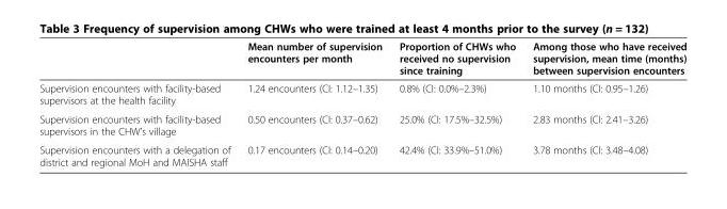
<table><thead><tr><td></td><td>Mean number of supervision encounters per month</td><td>Proportion of CHWs who received no supervision since training</td><td>Among those who have received supervision, mean time (months) between supervision encounters</td></tr></thead><tbody><tr><td>Supervision encounters with facility-based supervisors at the health facility</td><td>1.24 encounters (CI: 1.12–1.35)</td><td>0.8% (CI: 0.0%–2.3%)</td><td>1.10 months (CI: 0.95–1.26)</td></tr><tr><td>Supervision encounters with facility-based supervisors in the CHW’s village</td><td>0.50 encounters (CI: 0.37–0.62)</td><td>25.0% (CI: 17.5%–32.5%)</td><td>2.83 months (CI: 2.41–3.26)</td></tr><tr><td>Supervision encounters with a delegation of district and regional MoH and MAISHA staff</td><td>0.17 encounters (CI: 0.14–0.20)</td><td>42.4% (CI: 33.9%–51.0%)</td><td>3.78 months (CI: 3.48–4.08)</td></tr></tbody></table>